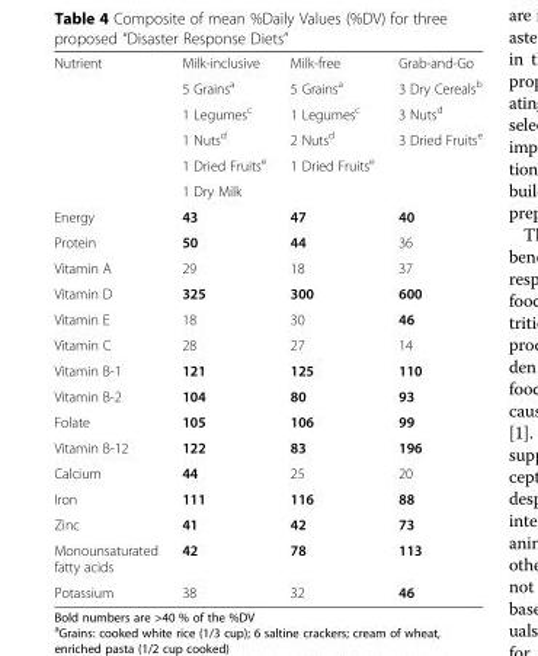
<table><tbody><tr><td rowspan="6">Nutrient</td><td>Milk-inclusive</td><td>Milk-free</td><td>Grab-and-Go</td></tr><tr><td>5 Grains<sup>a</sup></td><td>5 Grains<sup>a</sup></td><td>3 Dry Cereals<sup>b</sup></td></tr><tr><td>1 Legumes<sup>c</sup></td><td>1 Legumes<sup>c</sup></td><td>3 Nuts<sup>d</sup></td></tr><tr><td>1 Nuts<sup>d</sup></td><td>2 Nuts<sup>d</sup></td><td>3 Dried Fruits<sup>e</sup></td></tr><tr><td>1 Dried Fruits<sup>e</sup></td><td>1 Dried Fruits<sup>e</sup></td><td></td></tr><tr><td>1 Dry Milk</td><td></td><td></td></tr><tr><td>Energy</td><td>43</td><td>47</td><td>40</td></tr><tr><td>Protein</td><td>50</td><td>44</td><td>36</td></tr><tr><td>Vitamin A</td><td>29</td><td>18</td><td>37</td></tr><tr><td>Vitamin D</td><td>325</td><td>300</td><td>600</td></tr><tr><td>Vitamin E</td><td>18</td><td>30</td><td>46</td></tr><tr><td>Vitamin C</td><td>28</td><td>27</td><td>14</td></tr><tr><td>Vitamin B-1</td><td>121</td><td>125</td><td>110</td></tr><tr><td>Vitamin B-2</td><td>104</td><td>80</td><td>93</td></tr><tr><td>Folate</td><td>105</td><td>106</td><td>99</td></tr><tr><td>Vitamin B-12</td><td>122</td><td>83</td><td>196</td></tr><tr><td>Calcium</td><td>44</td><td>25</td><td>20</td></tr><tr><td>Iron</td><td>111</td><td>116</td><td>88</td></tr><tr><td>Zinc</td><td>41</td><td>42</td><td>73</td></tr><tr><td>Monounsaturated fatty acids</td><td>42</td><td>78</td><td>113</td></tr><tr><td>Potassium</td><td>38</td><td>32</td><td>46</td></tr></tbody></table>